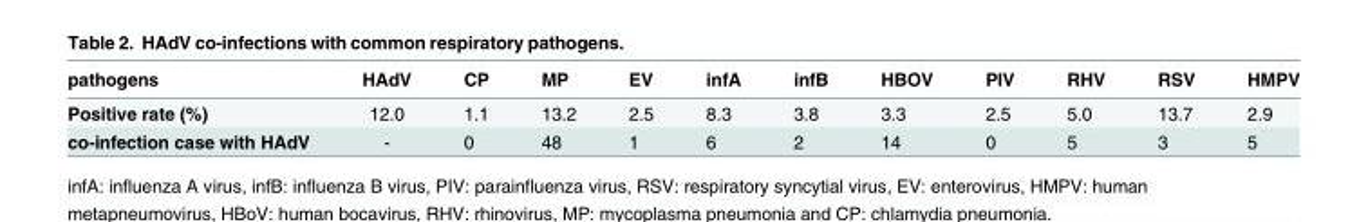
<table><thead><tr><td>pathogens</td><td>HAdV</td><td>CP</td><td>MP</td><td>EV</td><td>infA</td><td>infB</td><td>HBOV</td><td>PIV</td><td>RHV</td><td>RSV</td><td>HMPV</td></tr></thead><tbody><tr><td>Positive rate (%)</td><td>12.0</td><td>1.1</td><td>13.2</td><td>2.5</td><td>8.3</td><td>3.8</td><td>3.3</td><td>2.5</td><td>5.0</td><td>13.7</td><td>2.9</td></tr><tr><td>co-infection case with HAdV</td><td>-</td><td>0</td><td>48</td><td>1</td><td>6</td><td>2</td><td>14</td><td>0</td><td>5</td><td>3</td><td>5</td></tr></tbody></table>